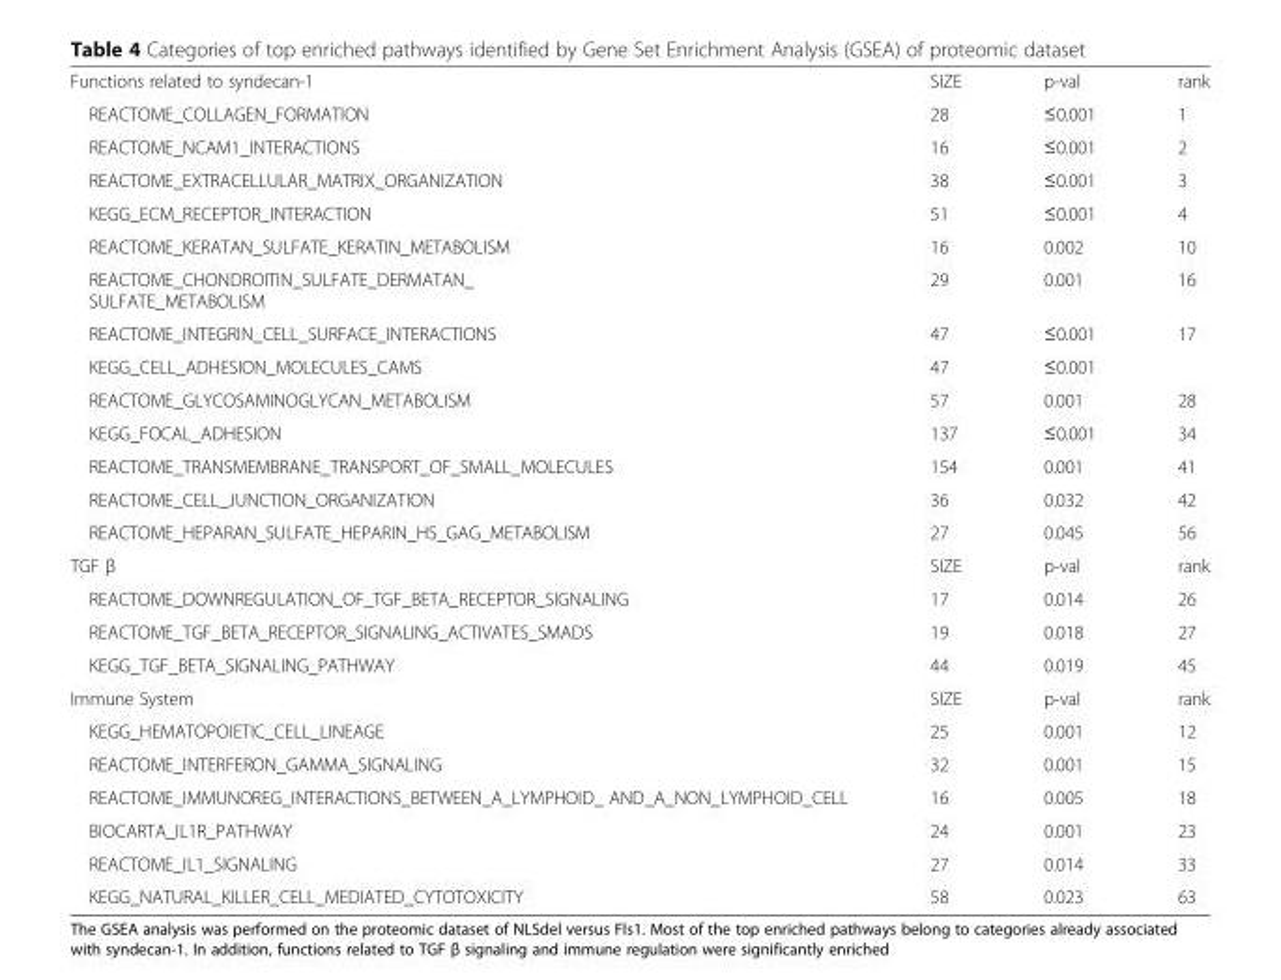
<table><tbody><tr><td>Functions related to syndecan-1</td><td>SIZE</td><td>p-val</td><td>rank</td></tr><tr><td>REACTOME_COLLAGEN_FORMATION</td><td>28</td><td>≤0.001</td><td>1</td></tr><tr><td>REACTOME_NCAM1_INTERACTIONS</td><td>16</td><td>≤0.001</td><td>2</td></tr><tr><td>REACTOME_EXTRACELLULAR_MATRIX_ORGANIZATION</td><td>38</td><td>≤0.001</td><td>3</td></tr><tr><td>KEGG_ECM_RECEPTOR_INTERACTION</td><td>51</td><td>≤0.001</td><td>4</td></tr><tr><td>REACTOME_KERATAN_SULFATE_KERATIN_METABOLISM</td><td>16</td><td>0.002</td><td>10</td></tr><tr><td>REACTOME_CHONDROITIN_SULFATE_DERMATAN_ SULFATE_METABOLISM</td><td>29</td><td>0.001</td><td>16</td></tr><tr><td>REACTOME_INTEGRIN_CELL_SURFACE_INTERACTIONS</td><td>47</td><td>≤0.001</td><td>17</td></tr><tr><td>KEGG_CELL_ADHESION_MOLECULES_CAMS</td><td>47</td><td>≤0.001</td><td></td></tr><tr><td>REACTOME_GLYCOSAMINOGLYCAN_METABOLISM</td><td>57</td><td>0.001</td><td>28</td></tr><tr><td>KEGG_FOCAL_ADHESION</td><td>137</td><td>≤0.001</td><td>34</td></tr><tr><td>REACTOME_TRANSMEMBRANE_TRANSPORT_OF_SMALL_MOLECULES</td><td>154</td><td>0.001</td><td>41</td></tr><tr><td>REACTOME_CELL_JUNCTION_ORGANIZATION</td><td>36</td><td>0.032</td><td>42</td></tr><tr><td>REACTOME_HEPARAN_SULFATE_HEPARIN_HS_GAG_METABOLISM</td><td>27</td><td>0.045</td><td>56</td></tr><tr><td>TGF β</td><td>SIZE</td><td>p-val</td><td>rank</td></tr><tr><td>REACTOME_DOWNREGULATION_OF_TGF_BETA_RECEPTOR_SIGNALING</td><td>17</td><td>0.014</td><td>26</td></tr><tr><td>REACTOME_TGF_BETA_RECEPTOR_SIGNALING_ACTIVATES_SMADS</td><td>19</td><td>0.018</td><td>27</td></tr><tr><td>KEGG_TGF_BETA_SIGNALING_PATHWAY</td><td>44</td><td>0.019</td><td>45</td></tr><tr><td>Immune System</td><td>SIZE</td><td>p-val</td><td>rank</td></tr><tr><td>KEGG_HEMATOPOIETIC_CELL_LINEAGE</td><td>25</td><td>0.001</td><td>12</td></tr><tr><td>REACTOME_INTERFERON_GAMMA_SIGNALING</td><td>32</td><td>0.001</td><td>15</td></tr><tr><td>REACTOME_IMMUNOREG_INTERACTIONS_BETWEEN_A_LYMPHOID_ AND_A_NON_LYMPHOID_CELL</td><td>16</td><td>0.005</td><td>18</td></tr><tr><td>BIOCARTA_IL1R_PATHWAY</td><td>24</td><td>0.001</td><td>23</td></tr><tr><td>REACTOME_IL1_SIGNALING</td><td>27</td><td>0.014</td><td>33</td></tr><tr><td>KEGG_NATURAL_KILLER_CELL_MEDIATED_CYTOTOXICITY</td><td>58</td><td>0.023</td><td>63</td></tr></tbody></table>